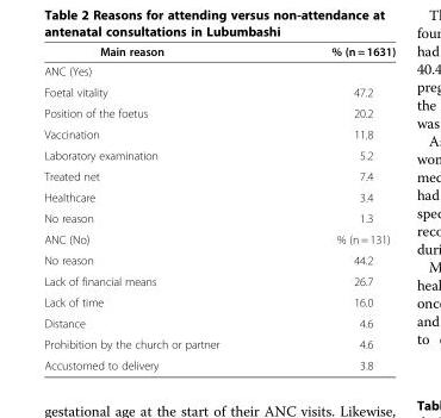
<table><thead><tr><td>Main reason</td><td>% (n = 1631)</td></tr></thead><tbody><tr><td colspan="2">ANC (Yes)</td></tr><tr><td>Foetal vitality</td><td>47.2</td></tr><tr><td>Position of the foetus</td><td>20.2</td></tr><tr><td>Vaccination</td><td>11.8</td></tr><tr><td>Laboratory examination</td><td>5.2</td></tr><tr><td>Treated net</td><td>7.4</td></tr><tr><td>Healthcare</td><td>3.4</td></tr><tr><td>No reason</td><td>1.3</td></tr><tr><td>ANC (No)</td><td>% (n = 131)</td></tr><tr><td>No reason</td><td>44.2</td></tr><tr><td>Lack of financial means</td><td>26.7</td></tr><tr><td>Lack of time</td><td>16.0</td></tr><tr><td>Distance</td><td>4.6</td></tr><tr><td>Prohibition by the church or partner</td><td>4.6</td></tr><tr><td>Accustomed to delivery</td><td>3.8</td></tr></tbody></table>